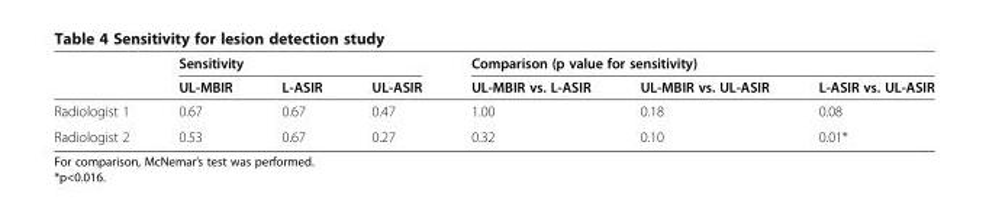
<table><thead><tr><td rowspan="2"></td><td colspan="3">Sensitivity</td><td colspan="3">Comparison (p value for sensitivity)</td></tr><tr><td>UL-MBIR</td><td>L-ASIR</td><td>UL-ASIR</td><td>UL-MBIR vs. L-ASIR</td><td>UL-MBIR vs. UL-ASIR</td><td>L-ASIR vs. UL-ASIR</td></tr></thead><tbody><tr><td>Radiologist 1</td><td>0.67</td><td>0.67</td><td>0.47</td><td>1.00</td><td>0.18</td><td>0.08</td></tr><tr><td>Radiologist 2</td><td>0.53</td><td>0.67</td><td>0.27</td><td>0.32</td><td>0.10</td><td>0.01*</td></tr></tbody></table>